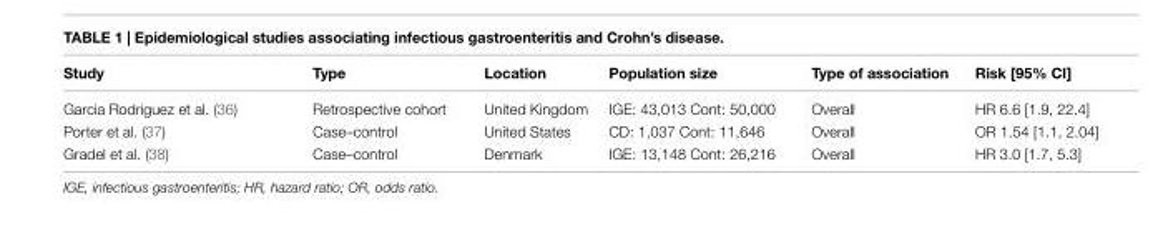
<table><thead><tr><td>Study</td><td>Type</td><td>Location</td><td>Population size</td><td>Type of association</td><td>Risk [95% Ci]</td></tr></thead><tbody><tr><td>Garcia Rodriguez et al. (36)</td><td>Retrospective cohort</td><td>United Kingdom</td><td>IGE: 43,013 Cont: 50,000</td><td>Overall</td><td>HR 6.6 [1.9, 22.4]</td></tr><tr><td>Porter et al. (37)</td><td>Case–control</td><td>United States</td><td>CD: 1,037 Cont: 11,646</td><td>Overall</td><td>OR 1.54 [1.1, 2.04]</td></tr><tr><td>Gradel et al. (38)</td><td>Case–control</td><td>Denmark</td><td>IGE: 13,148 Cont: 26,216</td><td>Overall</td><td>HR 3.0 [1.7, 5.3]</td></tr></tbody></table>